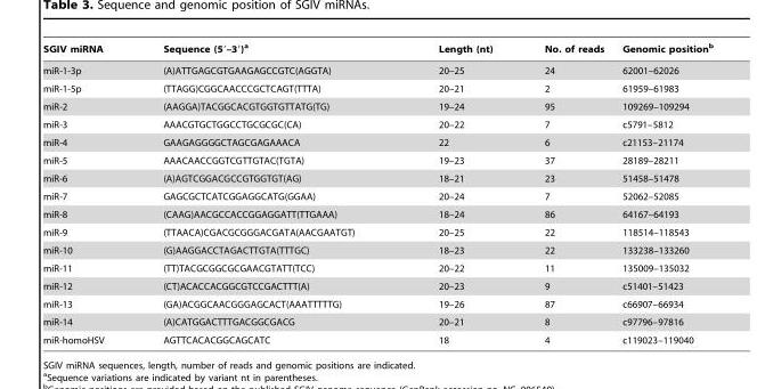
<table><thead><tr><td>SGIV miRNA</td><td>Sequence (5′–3′)<sup>a</sup></td><td>Length (nt)</td><td>No. of reads</td><td>Genomic position<sup>b</sup></td></tr></thead><tbody><tr><td>miR-1-3p</td><td>(A)ATTGAGCGTGAAGAGCCGTC(AGGTA)</td><td>20–25</td><td>24</td><td>62001–62026</td></tr><tr><td>miR-1-5p</td><td>(TTAGG)CGGCAACCCGCTCAGT(TTTA)</td><td>20–21</td><td>2</td><td>61959–61983</td></tr><tr><td>miR-2</td><td>(AAGGA)TACGGCACGTGGTGTTATG(TG)</td><td>19–24</td><td>95</td><td>109269–109294</td></tr><tr><td>miR-3</td><td>AAACGTGCTGGCCTGCGCGC(CA)</td><td>20–22</td><td>7</td><td>c5791–5812</td></tr><tr><td>miR-4</td><td>GAAGAGGGGCTAGCGAGAAACA</td><td>22</td><td>6</td><td>c21153–21174</td></tr><tr><td>miR-5</td><td>AAACAACCGGTCGTTGTAC(TGTA)</td><td>19–23</td><td>37</td><td>28189–28211</td></tr><tr><td>miR-6</td><td>(A)AGTCGGACGCCGTGGTGT(AG)</td><td>18–21</td><td>23</td><td>51458–51478</td></tr><tr><td>miR-7</td><td>GAGCGCTCATCGGAGGCATG(GGAA)</td><td>20–24</td><td>7</td><td>52062–52085</td></tr><tr><td>miR-8</td><td>(CAAG)AACGCCACCGGAGGATT(TTGAAA)</td><td>18–24</td><td>86</td><td>64167–64193</td></tr><tr><td>miR-9</td><td>(TTAACA)CGACGCGGGACGATA(AACGAATGT)</td><td>20–25</td><td>22</td><td>118514–118543</td></tr><tr><td>miR-10</td><td>(G)AAGGACCTAGACTTGTA(TTTGC)</td><td>18–23</td><td>22</td><td>133238–133260</td></tr><tr><td>miR-11</td><td>(TT)TACGCGGCGCGAACGTATT(TCC)</td><td>20–22</td><td>11</td><td>135009–135032</td></tr><tr><td>miR-12</td><td>(CT)ACACCACGGCGTCCGACTTT(A)</td><td>20–23</td><td>9</td><td>c51401–51423</td></tr><tr><td>miR-13</td><td>(GA)ACGGCAACGGGAGCACT(AAATTTTTG)</td><td>19–26</td><td>87</td><td>c66907–66934</td></tr><tr><td>miR-14</td><td>(A)CATGGACTTTGACGGCGACG</td><td>20–21</td><td>8</td><td>c97796–97816</td></tr><tr><td>miR-homoHSV</td><td>AGTTCACACGGCAGCATC</td><td>18</td><td>4</td><td>c119023–119040</td></tr></tbody></table>